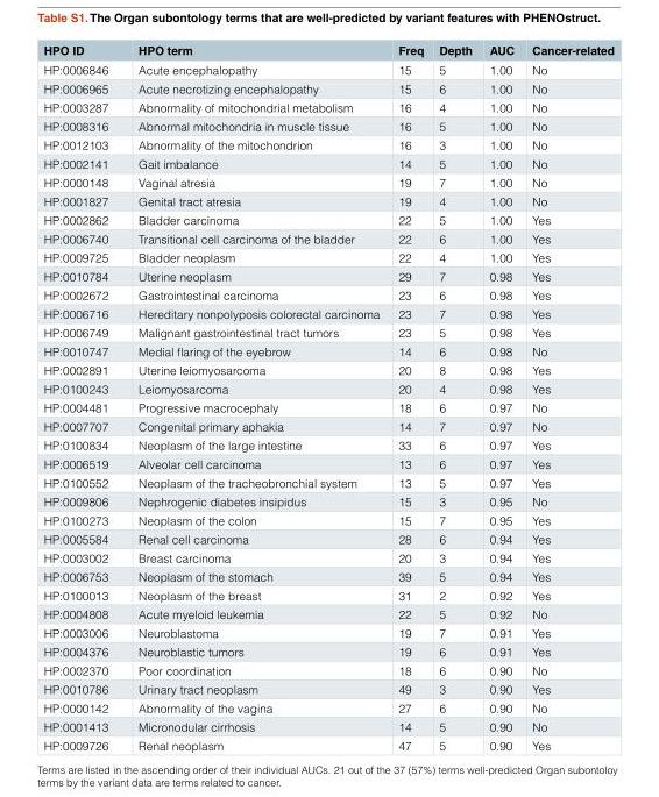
<table><thead><tr><td>HPO ID</td><td>HPO term</td><td>Freq</td><td>Depth</td><td>AUC</td><td>Cancer-related</td></tr></thead><tbody><tr><td>HP:0006846</td><td>Acute encephalopathy</td><td>15</td><td>5</td><td>1.00</td><td>No</td></tr><tr><td>HP:0006965</td><td>Acute necrotizing encephalopathy</td><td>15</td><td>6</td><td>1.00</td><td>No</td></tr><tr><td>HP:0003287</td><td>Abnormality of mitochondrial metabolism</td><td>16</td><td>4</td><td>1.00</td><td>No</td></tr><tr><td>HP:0008316</td><td>Abnormal mitochondria in muscle tissue</td><td>16</td><td>5</td><td>1.00</td><td>No</td></tr><tr><td>HP:0012103</td><td>Abnormality of the mitochondrion</td><td>16</td><td>3</td><td>1.00</td><td>No</td></tr><tr><td>HP:0002141</td><td>Gait imbalance</td><td>14</td><td>5</td><td>1.00</td><td>No</td></tr><tr><td>HP:0000148</td><td>Vaginal atresia</td><td>19</td><td>7</td><td>1.00</td><td>No</td></tr><tr><td>HP:0001827</td><td>Genital tract atresia</td><td>19</td><td>4</td><td>1.00</td><td>No</td></tr><tr><td>HP:0002862</td><td>Bladder carcinoma</td><td>22</td><td>5</td><td>1.00</td><td>Yes</td></tr><tr><td>HP:0006740</td><td>Transitional cell carcinoma of the bladder</td><td>22</td><td>6</td><td>1.00</td><td>Yes</td></tr><tr><td>HP:0009725</td><td>Bladder neoplasm</td><td>22</td><td>4</td><td>1.00</td><td>Yes</td></tr><tr><td>HP:0010784</td><td>Uterine neoplasm</td><td>29</td><td>7</td><td>0.98</td><td>Yes</td></tr><tr><td>HP:0002672</td><td>Gastrointestinal carcinoma</td><td>23</td><td>6</td><td>0.98</td><td>Yes</td></tr><tr><td>HP:0006716</td><td>Hereditary nonpolyposis colorectal carcinoma</td><td>23</td><td>7</td><td>0.98</td><td>Yes</td></tr><tr><td>HP:0006749</td><td>Malignant gastrointestinal tract tumors</td><td>23</td><td>5</td><td>0.98</td><td>Yes</td></tr><tr><td>HP:0010747</td><td>Medial flaring of the eyebrow</td><td>14</td><td>6</td><td>0.98</td><td>No</td></tr><tr><td>HP:0002891</td><td>Uterine leiomyosarcoma</td><td>20</td><td>8</td><td>0.98</td><td>Yes</td></tr><tr><td>HP:0100243</td><td>Leiomyosarcoma</td><td>20</td><td>4</td><td>0.98</td><td>Yes</td></tr><tr><td>HP:0004481</td><td>Progressive macrocephaly</td><td>18</td><td>6</td><td>0.97</td><td>No</td></tr><tr><td>HP:0007707</td><td>Congenital primary aphakia</td><td>14</td><td>7</td><td>0.97</td><td>No</td></tr><tr><td>HP:0100834</td><td>Neoplasm of the large intestine</td><td>33</td><td>6</td><td>0.97</td><td>Yes</td></tr><tr><td>HP:0006519</td><td>Alveolar cell carcinoma</td><td>13</td><td>6</td><td>0.97</td><td>Yes</td></tr><tr><td>HP:0100552</td><td>Neoplasm of the tracheobronchial system</td><td>13</td><td>5</td><td>0.97</td><td>Yes</td></tr><tr><td>HP:0009806</td><td>Nephrogenic diabetes insipidus</td><td>15</td><td>3</td><td>0.95</td><td>No</td></tr><tr><td>HP:0100273</td><td>Neoplasm of the colon</td><td>15</td><td>7</td><td>0.95</td><td>Yes</td></tr><tr><td>HP:0005584</td><td>Renal cell carcinoma</td><td>28</td><td>6</td><td>0.94</td><td>Yes</td></tr><tr><td>HP:0003002</td><td>Breast carcinoma</td><td>20</td><td>3</td><td>0.94</td><td>Yes</td></tr><tr><td>HP:0006753</td><td>Neoplasm of the stomach</td><td>39</td><td>5</td><td>0.94</td><td>Yes</td></tr><tr><td>HP:0100013</td><td>Neoplasm of the breast</td><td>31</td><td>2</td><td>0.92</td><td>Yes</td></tr><tr><td>HP:0004808</td><td>Acute myeloid leukemia</td><td>22</td><td>5</td><td>0.92</td><td>No</td></tr><tr><td>HP:0003006</td><td>Neuroblastoma</td><td>19</td><td>7</td><td>0.91</td><td>Yes</td></tr><tr><td>HP:0004376</td><td>Neuroblastic tumors</td><td>19</td><td>6</td><td>0.91</td><td>Yes</td></tr><tr><td>HP:0002370</td><td>Poor coordination</td><td>18</td><td>6</td><td>0.90</td><td>No</td></tr><tr><td>HP:0010786</td><td>Urinary tract neoplasm</td><td>49</td><td>3</td><td>0.90</td><td>Yes</td></tr><tr><td>HP:0000142</td><td>Abnormality of the vagina</td><td>27</td><td>6</td><td>0.90</td><td>No</td></tr><tr><td>HP:0001413</td><td>Micronodular cirrhosis</td><td>14</td><td>5</td><td>0.90</td><td>No</td></tr><tr><td>HP:0009726</td><td>Renal neoplasm</td><td>47</td><td>5</td><td>0.90</td><td>Yes</td></tr></tbody></table>